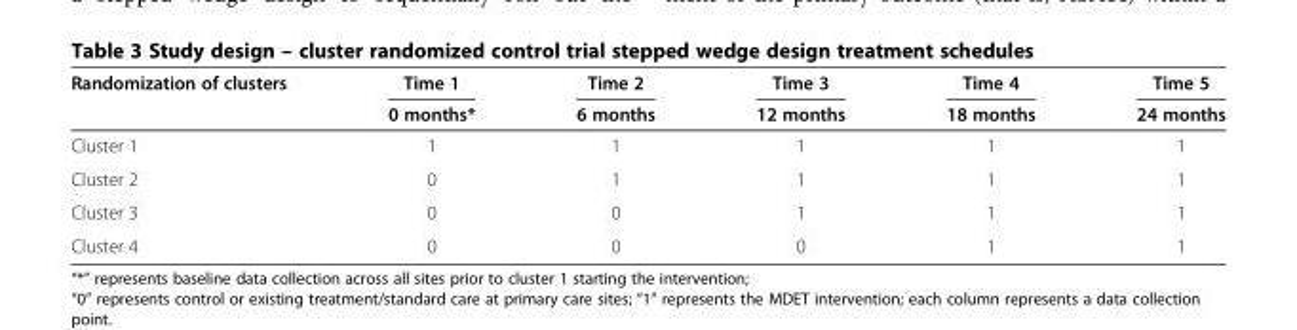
<table><thead><tr><td rowspan="2">Randomization of clusters</td><td rowspan="2">Time 1 0 months*</td><td rowspan="2">Time 2 6 months</td><td rowspan="2">Time 3 12 months</td><td rowspan="2">Time 4 18 months</td><td rowspan="2">Time 5 24 months</td></tr><tr></tr></thead><tbody><tr><td>Cluster 1</td><td>1</td><td>1</td><td>1</td><td>1</td><td>1</td></tr><tr><td>Cluster 2</td><td>0</td><td>1</td><td>1</td><td>1</td><td>1</td></tr><tr><td>Cluster 3</td><td>0</td><td>0</td><td>1</td><td>1</td><td>1</td></tr><tr><td>Cluster 4</td><td>0</td><td>0</td><td>0</td><td>1</td><td>1</td></tr></tbody></table>